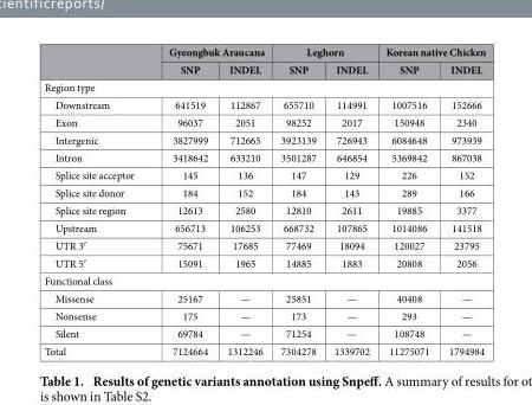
<table><thead><tr><td rowspan="2"></td><td colspan="2">Gyeongbuk Araucana</td><td colspan="2">Leghorn</td><td colspan="2">Korean native Chicken</td></tr><tr><td>SNP</td><td>INDEL</td><td>SNP</td><td>INDEL</td><td>SNP</td><td>INDEL</td></tr></thead><tbody><tr><td colspan="7">Region type</td></tr><tr><td>Downstream</td><td>641519</td><td>112867</td><td>655710</td><td>114991</td><td>1007516</td><td>152666</td></tr><tr><td>Exon</td><td>96037</td><td>2051</td><td>98252</td><td>2017</td><td>150948</td><td>2340</td></tr><tr><td>Intergenic</td><td>3827999</td><td>712665</td><td>3923139</td><td>726943</td><td>6084648</td><td>973939</td></tr><tr><td>Intron</td><td>3418642</td><td>633210</td><td>3501287</td><td>646854</td><td>5369842</td><td>867038</td></tr><tr><td>Splice site acceptor</td><td>145</td><td>136</td><td>147</td><td>129</td><td>226</td><td>152</td></tr><tr><td>Splice site donor</td><td>184</td><td>152</td><td>184</td><td>143</td><td>289</td><td>166</td></tr><tr><td>Splice site region</td><td>12613</td><td>2580</td><td>12810</td><td>2611</td><td>19885</td><td>3377</td></tr><tr><td>Upstream</td><td>656713</td><td>106253</td><td>668732</td><td>107865</td><td>1014086</td><td>141518</td></tr><tr><td>UTR 3′</td><td>75671</td><td>17685</td><td>77469</td><td>18094</td><td>120027</td><td>23795</td></tr><tr><td>UTR 5′</td><td>15091</td><td>1965</td><td>14885</td><td>1883</td><td>20808</td><td>2056</td></tr><tr><td colspan="7">Functional class</td></tr><tr><td>Missense</td><td>25167</td><td>—</td><td>25851</td><td>—</td><td>40408</td><td>—</td></tr><tr><td>Nonsense</td><td>175</td><td>—</td><td>173</td><td>—</td><td>293</td><td>—</td></tr><tr><td>Silent</td><td>69784</td><td>—</td><td>71254</td><td>—</td><td>108748</td><td>—</td></tr><tr><td>Total</td><td>7124664</td><td>1312246</td><td>7304278</td><td>1339702</td><td>11275071</td><td>1794984</td></tr></tbody></table>